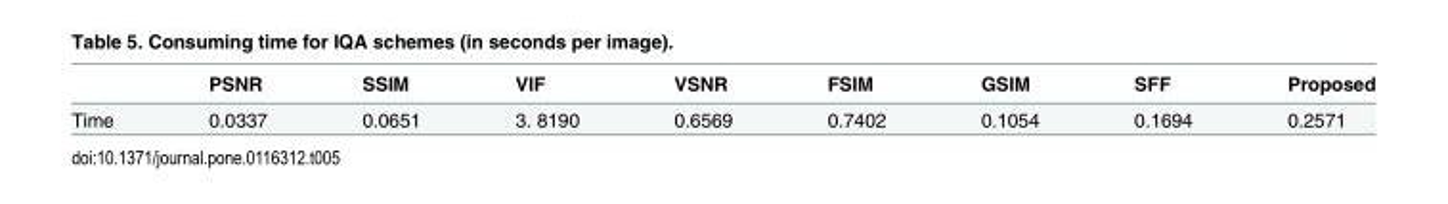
<table><thead><tr><td></td><td>PSNR</td><td>SSIM</td><td>VIF</td><td>VSNR</td><td>FSIM</td><td>GSIM</td><td>SFF</td><td>Proposed</td></tr></thead><tbody><tr><td>Time</td><td>0.0337</td><td>0.0651</td><td>3. 8190</td><td>0.6569</td><td>0.7402</td><td>0.1054</td><td>0.1694</td><td>0.2571</td></tr></tbody></table>